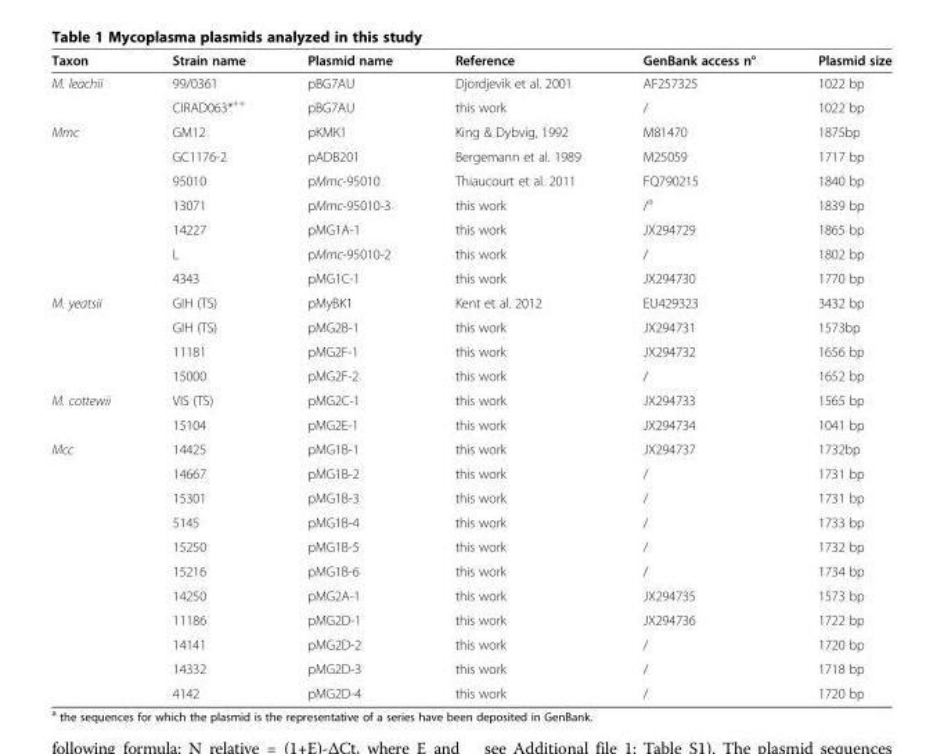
<table><thead><tr><td>Taxon</td><td>Strain name</td><td>Plasmid name</td><td>Reference</td><td>GenBank access n°</td><td>Plasmid size</td></tr></thead><tbody><tr><td rowspan="2">M. leachii</td><td>99/0361</td><td>pBG7AU</td><td>Djordjevik et al. 2001</td><td>AF257325</td><td>1022 bp</td></tr><tr><td>CIRAD063*<sup>++</sup></td><td>pBG7AU</td><td>this work</td><td>/</td><td>1022 bp</td></tr><tr><td rowspan="7">Mmc</td><td>GM12</td><td>pKMK1</td><td>King &amp; Dybvig, 1992</td><td>M81470</td><td>1875bp</td></tr><tr><td>GC1176-2</td><td>pADB201</td><td>Bergemann et al. 1989</td><td>M25059</td><td>1717 bp</td></tr><tr><td>95010</td><td>pMmc-95010</td><td>Thiaucourt et al. 2011</td><td>FQ790215</td><td>1840 bp</td></tr><tr><td>13071</td><td>pMmc-95010-3</td><td>this work</td><td>/<sup>a</sup></td><td>1839 bp</td></tr><tr><td>14227</td><td>pMG1A-1</td><td>this work</td><td>JX294729</td><td>1865 bp</td></tr><tr><td>L</td><td>pMmc-95010-2</td><td>this work</td><td>/</td><td>1802 bp</td></tr><tr><td>4343</td><td>pMG1C-1</td><td>this work</td><td>JX294730</td><td>1770 bp</td></tr><tr><td rowspan="4">M. yeatsii</td><td>GIH (TS)</td><td>pMyBK1</td><td>Kent et al. 2012</td><td>EU429323</td><td>3432 bp</td></tr><tr><td>GIH (TS)</td><td>pMG2B-1</td><td>this work</td><td>JX294731</td><td>1573bp</td></tr><tr><td>11181</td><td>pMG2F-1</td><td>this work</td><td>JX294732</td><td>1656 bp</td></tr><tr><td>15000</td><td>pMG2F-2</td><td>this work</td><td>/</td><td>1652 bp</td></tr><tr><td rowspan="2">M. cottewii</td><td>VIS (TS)</td><td>pMG2C-1</td><td>this work</td><td>JX294733</td><td>1565 bp</td></tr><tr><td>15104</td><td>pMG2E-1</td><td>this work</td><td>JX294734</td><td>1041 bp</td></tr><tr><td rowspan="11">Mcc</td><td>14425</td><td>pMG1B-1</td><td>this work</td><td>JX294737</td><td>1732bp</td></tr><tr><td>14667</td><td>pMG1B-2</td><td>this work</td><td>/</td><td>1731 bp</td></tr><tr><td>15301</td><td>pMG1B-3</td><td>this work</td><td>/</td><td>1731 bp</td></tr><tr><td>5145</td><td>pMG1B-4</td><td>this work</td><td>/</td><td>1733 bp</td></tr><tr><td>15250</td><td>pMG1B-5</td><td>this work</td><td>/</td><td>1732 bp</td></tr><tr><td>15216</td><td>pMG1B-6</td><td>this work</td><td>/</td><td>1734 bp</td></tr><tr><td>14250</td><td>pMG2A-1</td><td>this work</td><td>JX294735</td><td>1573 bp</td></tr><tr><td>11186</td><td>pMG2D-1</td><td>this work</td><td>JX294736</td><td>1722 bp</td></tr><tr><td>14141</td><td>pMG2D-2</td><td>this work</td><td>/</td><td>1720 bp</td></tr><tr><td>14332</td><td>pMG2D-3</td><td>this work</td><td>/</td><td>1718 bp</td></tr><tr><td>4142</td><td>pMG2D-4</td><td>this work</td><td>/</td><td>1720 bp</td></tr></tbody></table>